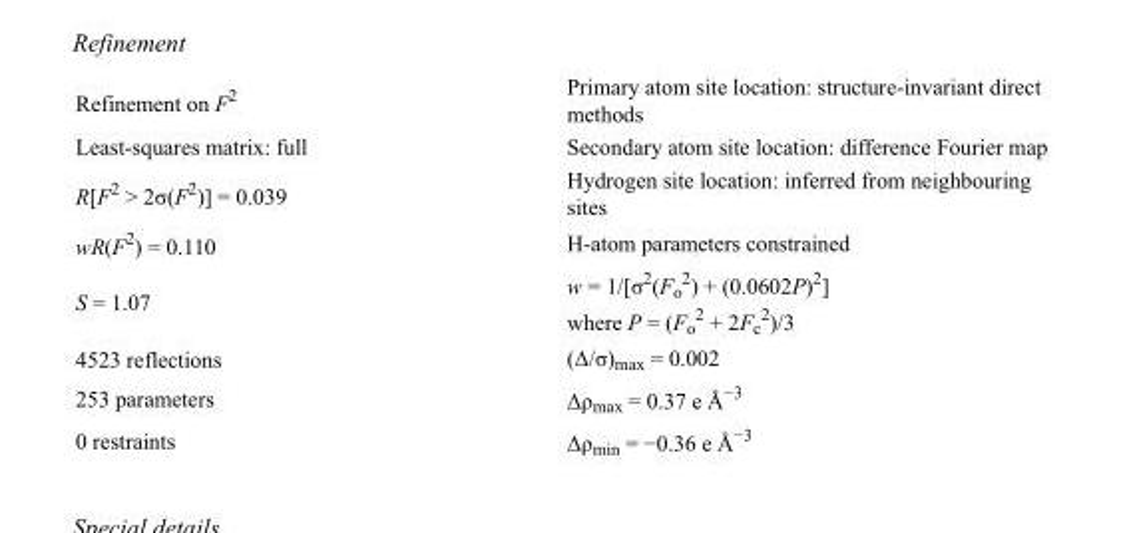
<table><tbody><tr><td>Refinement on F<sup>2</sup></td><td>Primary atom site location: structure-invariant direct methods</td></tr><tr><td>Least-squares matrix: full</td><td>Secondary atom site location: difference Fourier map</td></tr><tr><td>R[F<sup>2</sup> &gt; 2σ(F<sup>2</sup>)] = 0.039</td><td>Hydrogen site location: inferred from neighbouring sites</td></tr><tr><td>wR(F<sup>2</sup>) = 0.110</td><td>H-atom parameters constrained</td></tr><tr><td>S = 1.07</td><td>w = 1/[σ<sup>2</sup>(F<sub>o</sub> <sup>2</sup>) + (0.0602P)<sup>2</sup>] where P = (F<sub>o</sub> <sup>2</sup> + 2F<sub>c</sub> <sup>2</sup>)/3</td></tr><tr><td>4523 reflections</td><td>(Δ/σ)<sub>max</sub> = 0.002</td></tr><tr><td>253 parameters</td><td>Δρ<sub>max</sub> = 0.37 e Å<sup>−3</sup></td></tr><tr><td>0 restraints</td><td>Δρ<sub>min</sub> = −0.36 e Å<sup>−3</sup></td></tr></tbody></table>